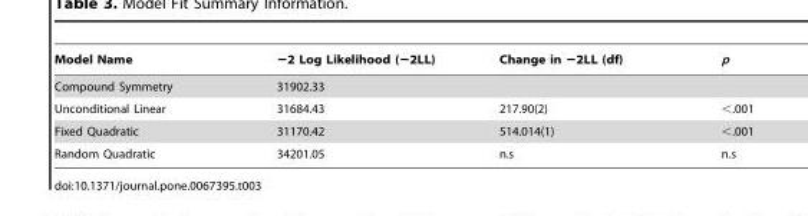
<table><thead><tr><td>Model Name</td><td>−2 Log Likelihood (−2LL)</td><td>Change in −2LL (df)</td><td>p</td></tr></thead><tbody><tr><td>Compound Symmetry</td><td>31902.33</td><td></td><td></td></tr><tr><td>Unconditional Linear</td><td>31684.43</td><td>217.90(2)</td><td>&lt;.001</td></tr><tr><td>Fixed Quadratic</td><td>31170.42</td><td>514.014(1)</td><td>&lt;.001</td></tr><tr><td>Random Quadratic</td><td>34201.05</td><td>n.s</td><td>n.s</td></tr></tbody></table>